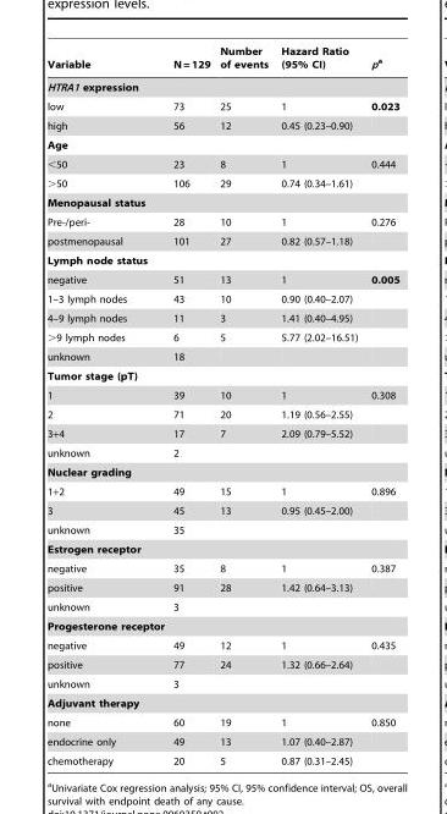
<table><thead><tr><td>Variable</td><td>N = 129</td><td>Number of events</td><td>Hazard Ratio (95% CI)</td><td>pa</td></tr></thead><tbody><tr><td colspan="5">HTRA1 expression</td></tr><tr><td>low</td><td>73</td><td>25</td><td>1</td><td>0.023</td></tr><tr><td>high</td><td>56</td><td>12</td><td>0.45 (0.23–0.90)</td><td></td></tr><tr><td colspan="5">Age</td></tr><tr><td>&lt;50</td><td>23</td><td>8</td><td>1</td><td>0.444</td></tr><tr><td>&gt;50</td><td>106</td><td>29</td><td>0.74 (0.34–1.61)</td><td></td></tr><tr><td colspan="5">Menopausal status</td></tr><tr><td>Pre-/peri-</td><td>28</td><td>10</td><td>1</td><td>0.276</td></tr><tr><td>postmenopausal</td><td>101</td><td>27</td><td>0.82 (0.57–1.18)</td><td></td></tr><tr><td colspan="5">Lymph node status</td></tr><tr><td>negative</td><td>51</td><td>13</td><td>1</td><td>0.005</td></tr><tr><td>1–3 lymph nodes</td><td>43</td><td>10</td><td>0.90 (0.40–2.07)</td><td></td></tr><tr><td>4–9 lymph nodes</td><td>11</td><td>3</td><td>1.41 (0.40–4.95)</td><td></td></tr><tr><td>&gt;9 lymph nodes</td><td>6</td><td>5</td><td>5.77 (2.02–16.51)</td><td></td></tr><tr><td>unknown</td><td>18</td><td></td><td></td><td></td></tr><tr><td colspan="5">Tumor stage (pT)</td></tr><tr><td>1</td><td>39</td><td>10</td><td>1</td><td>0.308</td></tr><tr><td>2</td><td>71</td><td>20</td><td>1.19 (0.56–2.55)</td><td></td></tr><tr><td>3+4</td><td>17</td><td>7</td><td>2.09 (0.79–5.52)</td><td></td></tr><tr><td>unknown</td><td>2</td><td></td><td></td><td></td></tr><tr><td colspan="5">Nuclear grading</td></tr><tr><td>1+2</td><td>49</td><td>15</td><td>1</td><td>0.896</td></tr><tr><td>3</td><td>45</td><td>13</td><td>0.95 (0.45–2.00)</td><td></td></tr><tr><td>unknown</td><td>35</td><td></td><td></td><td></td></tr><tr><td colspan="5">Estrogen receptor</td></tr><tr><td>negative</td><td>35</td><td>8</td><td>1</td><td>0.387</td></tr><tr><td>positive</td><td>91</td><td>28</td><td>1.42 (0.64–3.13)</td><td></td></tr><tr><td>unknown</td><td>3</td><td></td><td></td><td></td></tr><tr><td colspan="5">Progesterone receptor</td></tr><tr><td>negative</td><td>49</td><td>12</td><td>1</td><td>0.435</td></tr><tr><td>positive</td><td>77</td><td>24</td><td>1.32 (0.66–2.64)</td><td></td></tr><tr><td>unknown</td><td>3</td><td></td><td></td><td></td></tr><tr><td colspan="5">Adjuvant therapy</td></tr><tr><td>none</td><td>60</td><td>19</td><td>1</td><td>0.850</td></tr><tr><td>endocrine only</td><td>49</td><td>13</td><td>1.07 (0.40–2.87)</td><td></td></tr><tr><td>chemotherapy</td><td>20</td><td>5</td><td>0.87 (0.31–2.45)</td><td></td></tr></tbody></table>